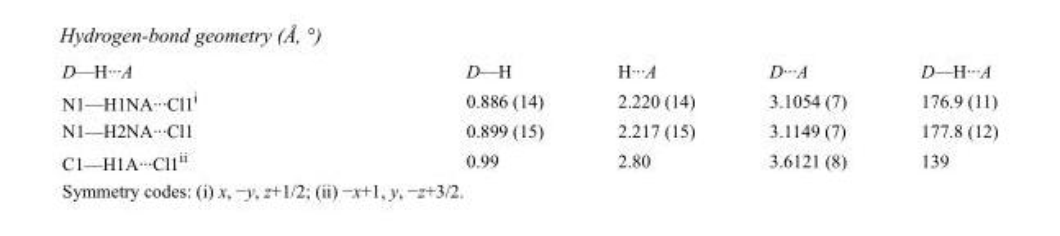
<table><tbody><tr><td>D—H···A</td><td>D—H</td><td>H···A</td><td>D···A</td><td>D—H···A</td></tr><tr><td>N1—H1NA···Cl1<sup>i</sup></td><td>0.886 (14)</td><td>2.220 (14)</td><td>3.1054 (7)</td><td>176.9 (11)</td></tr><tr><td>N1—H2NA···Cl1</td><td>0.899 (15)</td><td>2.217 (15)</td><td>3.1149 (7)</td><td>177.8 (12)</td></tr><tr><td>C1—H1A···Cl1<sup>ii</sup></td><td>0.99</td><td>2.80</td><td>3.6121 (8)</td><td>139</td></tr></tbody></table>